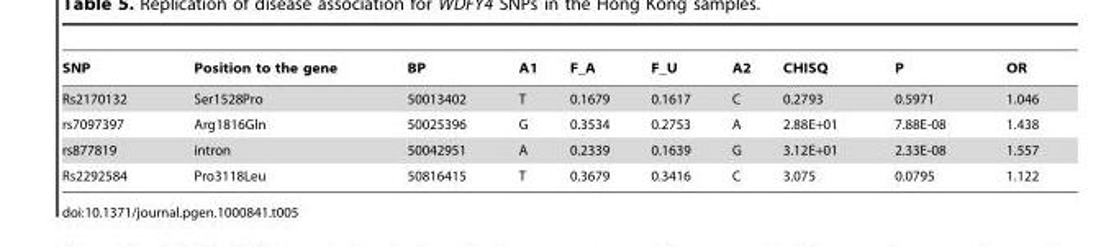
<table><thead><tr><td>SNP</td><td>Position to the gene</td><td>BP</td><td>A1</td><td>F_A</td><td>F_U</td><td>A2</td><td>CHISQ</td><td>P</td><td>OR</td></tr></thead><tbody><tr><td>Rs2170132</td><td>Ser1528Pro</td><td>50013402</td><td>T</td><td>0.1679</td><td>0.1617</td><td>C</td><td>0.2793</td><td>0.5971</td><td>1.046</td></tr><tr><td>rs7097397</td><td>Arg1816Gln</td><td>50025396</td><td>G</td><td>0.3534</td><td>0.2753</td><td>A</td><td>2.88E+01</td><td>7.88E-08</td><td>1.438</td></tr><tr><td>rs877819</td><td>intron</td><td>50042951</td><td>A</td><td>0.2339</td><td>0.1639</td><td>G</td><td>3.12E+01</td><td>2.33E-08</td><td>1.557</td></tr><tr><td>Rs2292584</td><td>Pro3118Leu</td><td>50816415</td><td>T</td><td>0.3679</td><td>0.3416</td><td>C</td><td>3.075</td><td>0.0795</td><td>1.122</td></tr></tbody></table>